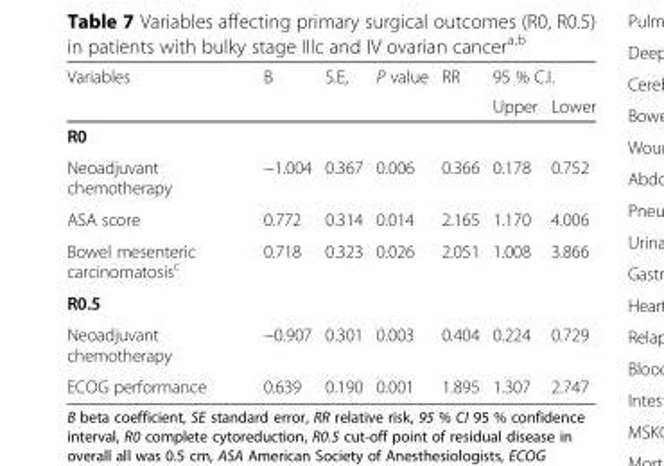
<table><thead><tr><td rowspan="2">Variables</td><td rowspan="2">B</td><td rowspan="2">S.E,</td><td rowspan="2">P value</td><td rowspan="2">RR</td><td colspan="2">95 % C.I.</td></tr><tr><td>Upper</td><td>Lower</td></tr></thead><tbody><tr><td colspan="7">R0</td></tr><tr><td>Neoadjuvant chemotherapy</td><td>−1.004</td><td>0.367</td><td>0.006</td><td>0.366</td><td>0.178</td><td>0.752</td></tr><tr><td>ASA score</td><td>0.772</td><td>0.314</td><td>0.014</td><td>2.165</td><td>1.170</td><td>4.006</td></tr><tr><td>Bowel mesenteric carcinomatosis<sup>c</sup></td><td>0.718</td><td>0.323</td><td>0.026</td><td>2.051</td><td>1.008</td><td>3.866</td></tr><tr><td colspan="7">R0.5</td></tr><tr><td>Neoadjuvant chemotherapy</td><td>−0.907</td><td>0.301</td><td>0.003</td><td>0.404</td><td>0.224</td><td>0.729</td></tr><tr><td>ECOG performance</td><td>0.639</td><td>0.190</td><td>0.001</td><td>1.895</td><td>1.307</td><td>2.747</td></tr></tbody></table>